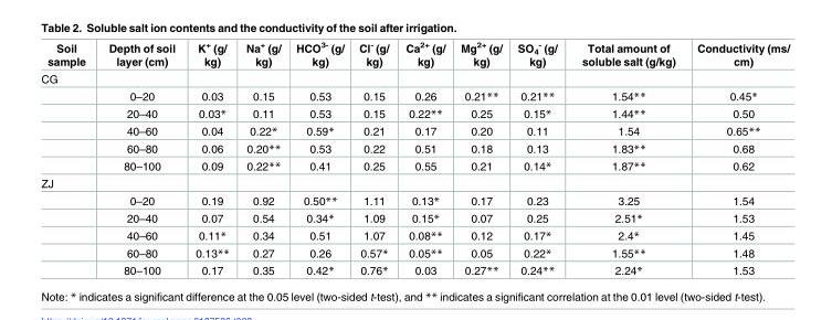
<table><thead><tr><td>Soil sample</td><td>Depth of soil layer (cm)</td><td>K<sup>+</sup> (g/ kg)</td><td>Na<sup>+</sup> (g/ kg)</td><td>HCO<sup>3-</sup> (g/ kg)</td><td>Cl<sup>-</sup> (g/ kg)</td><td>Ca<sup>2+</sup> (g/ kg)</td><td>Mg<sup>2+</sup> (g/ kg)</td><td>SO<sub>4</sub> <sup>-</sup> (g/ kg)</td><td>Total amount of soluble salt (g/kg)</td><td>Conductivity (ms/ cm)</td></tr></thead><tbody><tr><td colspan="11">CG</td></tr><tr><td></td><td>0–20</td><td>0.03</td><td>0.15</td><td>0.53</td><td>0.15</td><td>0.26</td><td>0.21**</td><td>0.21**</td><td>1.54**</td><td>0.45*</td></tr><tr><td></td><td>20–40</td><td>0.03*</td><td>0.11</td><td>0.53</td><td>0.15</td><td>0.22**</td><td>0.25</td><td>0.15*</td><td>1.44**</td><td>0.50</td></tr><tr><td></td><td>40–60</td><td>0.04</td><td>0.22*</td><td>0.59*</td><td>0.21</td><td>0.17</td><td>0.20</td><td>0.11</td><td>1.54</td><td>0.65**</td></tr><tr><td></td><td>60–80</td><td>0.06</td><td>0.20**</td><td>0.53</td><td>0.22</td><td>0.51</td><td>0.18</td><td>0.13</td><td>1.83**</td><td>0.68</td></tr><tr><td></td><td>80–100</td><td>0.09</td><td>0.22**</td><td>0.41</td><td>0.25</td><td>0.55</td><td>0.21</td><td>0.14*</td><td>1.87**</td><td>0.62</td></tr><tr><td colspan="11">ZJ</td></tr><tr><td></td><td>0–20</td><td>0.19</td><td>0.92</td><td>0.50**</td><td>1.11</td><td>0.13*</td><td>0.17</td><td>0.23</td><td>3.25</td><td>1.54</td></tr><tr><td></td><td>20–40</td><td>0.07</td><td>0.54</td><td>0.34*</td><td>1.09</td><td>0.15*</td><td>0.07</td><td>0.25</td><td>2.51*</td><td>1.53</td></tr><tr><td></td><td>40–60</td><td>0.11*</td><td>0.34</td><td>0.51</td><td>1.07</td><td>0.08**</td><td>0.12</td><td>0.17*</td><td>2.4*</td><td>1.45</td></tr><tr><td></td><td>60–80</td><td>0.13**</td><td>0.27</td><td>0.26</td><td>0.57*</td><td>0.05**</td><td>0.05</td><td>0.22*</td><td>1.55**</td><td>1.48</td></tr><tr><td></td><td>80–100</td><td>0.17</td><td>0.35</td><td>0.42*</td><td>0.76*</td><td>0.03</td><td>0.27**</td><td>0.24**</td><td>2.24*</td><td>1.53</td></tr></tbody></table>